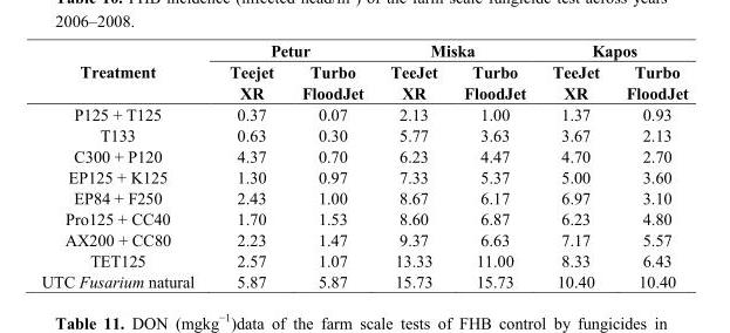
<table><thead><tr><td rowspan="2">Treatment</td><td colspan="2">Petur</td><td colspan="2">Miska</td><td colspan="2">Kapos</td></tr><tr><td>Teejet XR</td><td>Turbo FloodJet</td><td>TeeJet XR</td><td>Turbo FloodJet</td><td>TeeJet XR</td><td>Turbo FloodJet</td></tr></thead><tbody><tr><td>P125 + T125</td><td>0.37</td><td>0.07</td><td>2.13</td><td>1.00</td><td>1.37</td><td>0.93</td></tr><tr><td>T133</td><td>0.63</td><td>0.30</td><td>5.77</td><td>3.63</td><td>3.67</td><td>2.13</td></tr><tr><td>C300 + P120</td><td>4.37</td><td>0.70</td><td>6.23</td><td>4.47</td><td>4.70</td><td>2.70</td></tr><tr><td>EP125 + K125</td><td>1.30</td><td>0.97</td><td>7.33</td><td>5.37</td><td>5.00</td><td>3.60</td></tr><tr><td>EP84 + F250</td><td>2.43</td><td>1.00</td><td>8.67</td><td>6.17</td><td>6.97</td><td>3.10</td></tr><tr><td>Pro125 + CC40</td><td>1.70</td><td>1.53</td><td>8.60</td><td>6.87</td><td>6.23</td><td>4.80</td></tr><tr><td>AX200 + CC80</td><td>2.23</td><td>1.47</td><td>9.37</td><td>6.63</td><td>7.17</td><td>5.57</td></tr><tr><td>TET125</td><td>2.57</td><td>1.07</td><td>13.33</td><td>11.00</td><td>8.33</td><td>6.43</td></tr><tr><td>UTC Fusarium natural</td><td>5.87</td><td>5.87</td><td>15.73</td><td>15.73</td><td>10.40</td><td>10.40</td></tr></tbody></table>